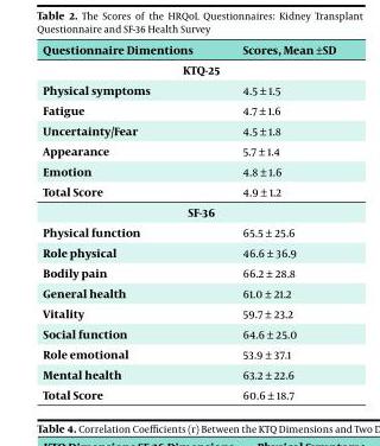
<table><thead><tr><td>Questionnaire Dimentions</td><td>Scores, Mean ±SD</td></tr></thead><tbody><tr><td colspan="2">KTQ-25</td></tr><tr><td>Physical symptoms</td><td>4.5 ± 1.5</td></tr><tr><td>Fatigue</td><td>4.7 ± 1.6</td></tr><tr><td>Uncertainty/Fear</td><td>4.5 ± 1.8</td></tr><tr><td>Appearance</td><td>5.7 ± 1.4</td></tr><tr><td>Emotion</td><td>4.8 ± 1.6</td></tr><tr><td>Total Score</td><td>4.9 ± 1.2</td></tr><tr><td colspan="2">SF-36</td></tr><tr><td>Physical function</td><td>65.5 ± 25.6</td></tr><tr><td>Role physical</td><td>46.6 ± 36.9</td></tr><tr><td>Bodily pain</td><td>66.2 ± 28.8</td></tr><tr><td>General health</td><td>61.0 ± 21.2</td></tr><tr><td>Vitality</td><td>59.7 ± 23.2</td></tr><tr><td>Social function</td><td>64.6 ± 25.0</td></tr><tr><td>Role emotional</td><td>53.9 ± 37.1</td></tr><tr><td>Mental health</td><td>63.2 ± 22.6</td></tr><tr><td>Total Score</td><td>60.6 ± 18.7</td></tr></tbody></table>